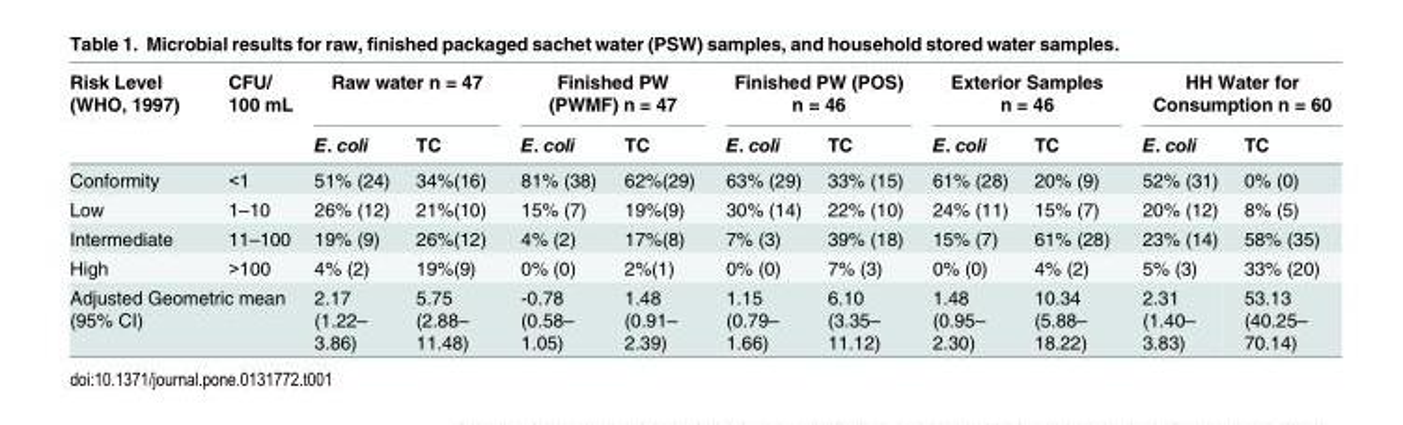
<table><thead><tr><td rowspan="2">Risk Level (WHO, 1997)</td><td rowspan="2">CFU/ 100 mL</td><td colspan="2">Raw water n = 47</td><td colspan="2">Finished PW (PWMF) n = 47</td><td colspan="2">Finished PW (POS) n = 46</td><td colspan="2">Exterior Samples n = 46</td><td colspan="2">HH Water for Consumption n = 60</td></tr><tr><td>E. coli</td><td>TC</td><td>E. coli</td><td>TC</td><td>E. coli</td><td>TC</td><td>E. coli</td><td>TC</td><td>E. coli</td><td>TC</td></tr></thead><tbody><tr><td>Conformity</td><td>&lt;1</td><td>51% (24)</td><td>34%(16)</td><td>81% (38)</td><td>62%(29)</td><td>63% (29)</td><td>33% (15)</td><td>61% (28)</td><td>20% (9)</td><td>52% (31)</td><td>0% (0)</td></tr><tr><td>Low</td><td>1–10</td><td>26% (12)</td><td>21%(10)</td><td>15% (7)</td><td>19%(9)</td><td>30% (14)</td><td>22% (10)</td><td>24% (11)</td><td>15% (7)</td><td>20% (12)</td><td>8% (5)</td></tr><tr><td>Intermediate</td><td>11–100</td><td>19% (9)</td><td>26%(12)</td><td>4% (2)</td><td>17%(8)</td><td>7% (3)</td><td>39% (18)</td><td>15% (7)</td><td>61% (28)</td><td>23% (14)</td><td>58% (35)</td></tr><tr><td>High</td><td>&gt;100</td><td>4% (2)</td><td>19%(9)</td><td>0% (0)</td><td>2%(1)</td><td>0% (0)</td><td>7% (3)</td><td>0% (0)</td><td>4% (2)</td><td>5% (3)</td><td>33% (20)</td></tr><tr><td colspan="2">Adjusted Geometric mean (95% CI)</td><td>2.17 (1.22– 3.86)</td><td>5.75 (2.88– 11.48)</td><td>-0.78 (0.58– 1.05)</td><td>1.48 (0.91– 2.39)</td><td>1.15 (0.79– 1.66)</td><td>6.10 (3.35– 11.12)</td><td>1.48 (0.95– 2.30)</td><td>10.34 (5.88– 18.22)</td><td>2.31 (1.40– 3.83)</td><td>53.13 (40.25– 70.14)</td></tr></tbody></table>